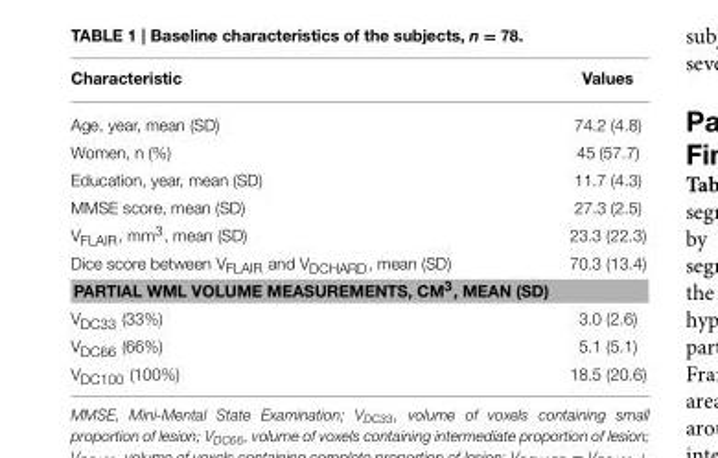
<table><thead><tr><td>Characteristic</td><td>Values</td></tr></thead><tbody><tr><td>Age, year, mean (SD)</td><td>74.2 (4.8)</td></tr><tr><td>Women, n (%)</td><td>45 (57.7)</td></tr><tr><td>Education, year, mean (SD)</td><td>11.7 (4.3)</td></tr><tr><td>MMSE score, mean (SD)</td><td>27.3 (2.5)</td></tr><tr><td>V<sub>FLAIR</sub>, mm<sup>3</sup>, mean (SD)</td><td>23.3 (22.3)</td></tr><tr><td>Dice score between V<sub>FLAIR</sub> and V<sub>DCHARD</sub>, mean (SD)</td><td>70.3 (13.4)</td></tr><tr><td colspan="2">PARTIAL WML VOLUME MEASUREMENTS, CM<sup>3</sup>, MEAN (SD)</td></tr><tr><td>V<sub>DC33</sub> (33%)</td><td>3.0 (2.6)</td></tr><tr><td>V<sub>DC66</sub> (66%)</td><td>5.1 (5.1)</td></tr><tr><td>V<sub>DC100</sub> (100%)</td><td>18.5 (20.6)</td></tr></tbody></table>